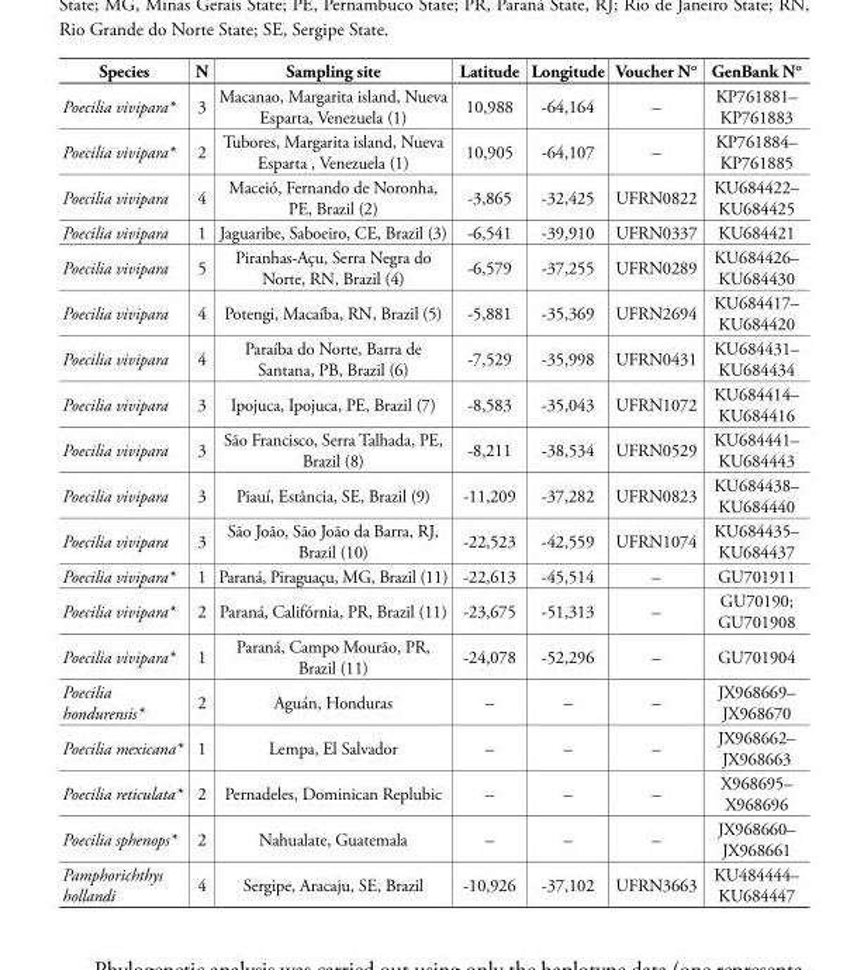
<table><thead><tr><td>Species</td><td>N</td><td>Sampling site</td><td>Latitude</td><td>Longitude</td><td>Voucher N°</td><td>GenBank N°</td></tr></thead><tbody><tr><td>Poecilia vivipara*</td><td>3</td><td>Macanao, Margarita island, Nueva Esparta, Venezuela (1)</td><td colspan="2">10,988 -64,164</td><td>–</td><td>KP761881– KP761883</td></tr><tr><td>Poecilia vivipara*</td><td>2</td><td>Tubores, Margarita island, Nueva Esparta , Venezuela (1)</td><td colspan="2">10,905 -64,107</td><td>–</td><td>KP761884– KP761885</td></tr><tr><td>Poecilia vivipara</td><td>4</td><td>Maceió, Fernando de Noronha, PE, Brazil (2)</td><td colspan="2">-3,865 -32,425</td><td>UFRN0822</td><td>KU684422– KU684425</td></tr><tr><td>Poecilia vivipara</td><td>1</td><td>Jaguaribe, Saboeiro, CE, Brazil (3)</td><td colspan="2">-6,541 -39,910</td><td>UFRN0337</td><td>KU684421</td></tr><tr><td>Poecilia vivipara</td><td>5</td><td>Piranhas-Açu, Serra Negra do Norte, RN, Brazil (4)</td><td colspan="2">-6,579 -37,255</td><td>UFRN0289</td><td>KU684426– KU684430</td></tr><tr><td>Poecilia vivipara</td><td>4</td><td>Potengi, Macaíba, RN, Brazil (5)</td><td colspan="2">-5,881 -35,369</td><td>UFRN2694</td><td>KU684417– KU684420</td></tr><tr><td>Poecilia vivipara</td><td>4</td><td>Paraíba do Norte, Barra de Santana, PB, Brazil (6)</td><td colspan="2">-7,529 -35,998</td><td>UFRN0431</td><td>KU684431– KU684434</td></tr><tr><td>Poecilia vivipara</td><td>3</td><td>Ipojuca, Ipojuca, PE, Brazil (7)</td><td colspan="2">-8,583 -35,043</td><td>UFRN1072</td><td>KU684414– KU684416</td></tr><tr><td>Poecilia vivipara</td><td>3</td><td>São Francisco, Serra Talhada, PE, Brazil (8)</td><td colspan="2">-8,211 -38,534</td><td>UFRN0529</td><td>KU684441– KU684443</td></tr><tr><td>Poecilia vivipara</td><td>3</td><td>Piauí, Estância, SE, Brazil (9)</td><td colspan="2">-11,209 -37,282</td><td>UFRN0823</td><td>KU684438– KU684440</td></tr><tr><td>Poecilia vivipara</td><td>3</td><td>São João, São João da Barra, RJ, Brazil (10)</td><td colspan="2">-22,523 -42,559</td><td>UFRN1074</td><td>KU684435– KU684437</td></tr><tr><td>Poecilia vivipara*</td><td>1</td><td>Paraná, Piraguaçu, MG, Brazil (11)</td><td colspan="2">-22,613 -45,514</td><td>–</td><td>GU701911</td></tr><tr><td>Poecilia vivipara*</td><td>2</td><td>Paraná, Califórnia, PR, Brazil (11)</td><td colspan="2">-23,675 -51,313</td><td>–</td><td>GU70190; GU701908</td></tr><tr><td>Poecilia vivipara*</td><td>1</td><td>Paraná, Campo Mourão, PR, Brazil (11)</td><td colspan="2">-24,078 -52,296</td><td>–</td><td>GU701904</td></tr><tr><td>Poecilia hondurensis*</td><td>2</td><td>Aguán, Honduras</td><td>–</td><td>–</td><td>–</td><td>JX968669– JX968670</td></tr><tr><td>Poecilia mexicana*</td><td>1</td><td>Lempa, El Salvador</td><td>–</td><td>–</td><td>–</td><td>JX968662– JX968663</td></tr><tr><td>Poecilia reticulata*</td><td>2</td><td>Pernadeles, Dominican Replubic</td><td>–</td><td>–</td><td>–</td><td>X968695– X968696</td></tr><tr><td>Poecilia sphenops*</td><td>2</td><td>Nahualate, Guatemala</td><td>–</td><td>–</td><td>–</td><td>JX968660– JX968661</td></tr><tr><td>Pamphorichthys hollandi</td><td>4</td><td>Sergipe, Aracaju, SE, Brazil</td><td colspan="2">-10,926 -37,102</td><td>UFRN3663</td><td>KU484444– KU684447</td></tr></tbody></table>